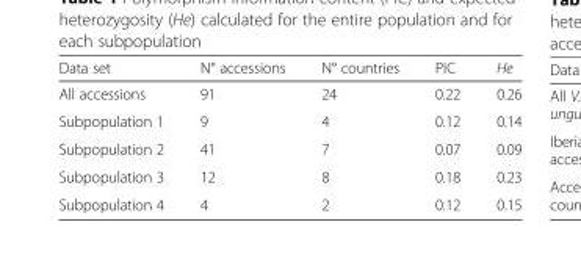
<table><thead><tr><td>Data set</td><td>N° accessions</td><td>N° countries</td><td>PIC</td><td>He</td></tr></thead><tbody><tr><td>All accessions</td><td>91</td><td>24</td><td>0.22</td><td>0.26</td></tr><tr><td>Subpopulation 1</td><td>9</td><td>4</td><td>0.12</td><td>0.14</td></tr><tr><td>Subpopulation 2</td><td>41</td><td>7</td><td>0.07</td><td>0.09</td></tr><tr><td>Subpopulation 3</td><td>12</td><td>8</td><td>0.18</td><td>0.23</td></tr><tr><td>Subpopulation 4</td><td>4</td><td>2</td><td>0.12</td><td>0.15</td></tr></tbody></table>